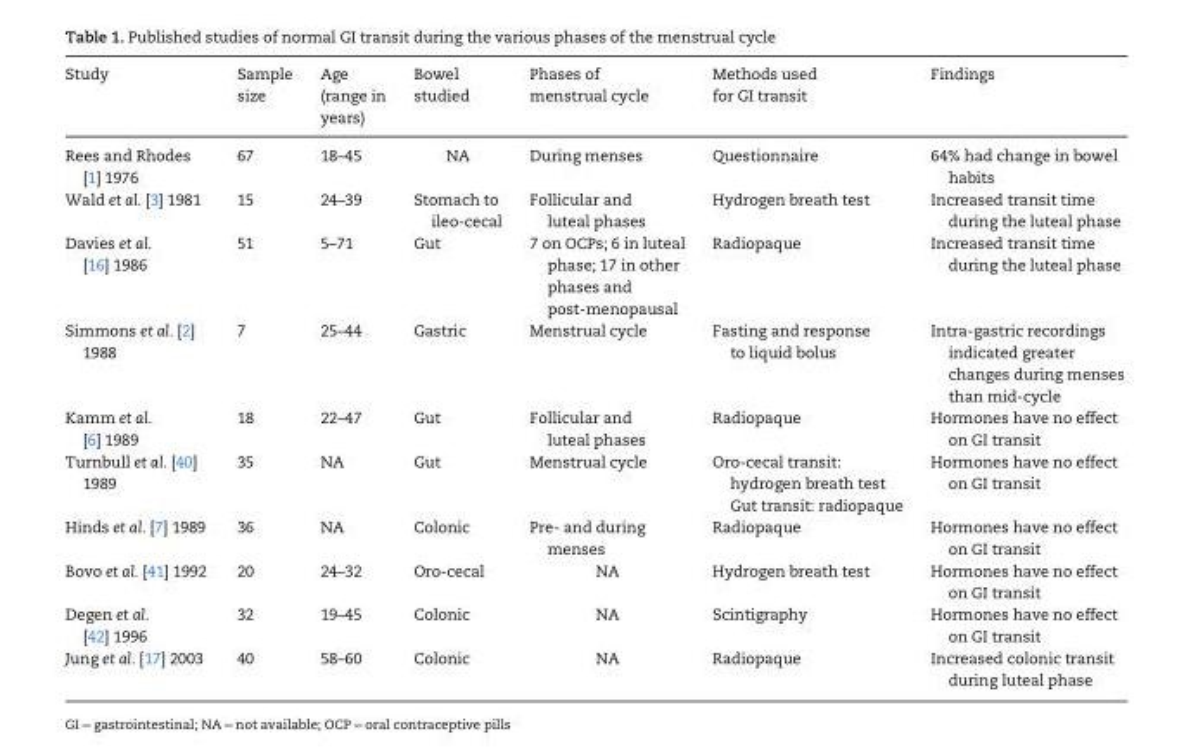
<table><thead><tr><td>Study</td><td>Sample size</td><td>Age (range in years)</td><td>Bowel studied</td><td>Phases of menstrual cycle</td><td>Methods used for GI transit</td><td>Findings</td></tr></thead><tbody><tr><td>Rees and Rhodes [1] 1976</td><td>67</td><td>18–45</td><td>NA</td><td>During menses</td><td>Questionnaire</td><td>64% had change in bowel habits</td></tr><tr><td>Wald et al. [3] 1981</td><td>15</td><td>24–39</td><td>Stomach to ileo-cecal</td><td>Follicular and luteal phases</td><td>Hydrogen breath test</td><td>Increased transit time during the luteal phase</td></tr><tr><td>Davies et al. [16] 1986</td><td>51</td><td>5–71</td><td>Gut</td><td>7 on OCPs; 6 in luteal phase; 17 in other phases and post-menopausal</td><td>Radiopaque</td><td>Increased transit time during the luteal phase</td></tr><tr><td>Simmons et al. [2] 1988</td><td>7</td><td>25–44</td><td>Gastric</td><td>Menstrual cycle</td><td>Fasting and response to liquid bolus</td><td>Intra-gastric recordings indicated greater changes during menses than mid-cycle</td></tr><tr><td>Kamm et al. [6] 1989</td><td>18</td><td>22–47</td><td>Gut</td><td>Follicular and luteal phases</td><td>Radiopaque</td><td>Hormones have no effect on GI transit</td></tr><tr><td>Turnbull et al. [40] 1989</td><td>35</td><td>NA</td><td>Gut</td><td>Menstrual cycle</td><td>Oro-cecal transit: hydrogen breath test Gut transit: radiopaque</td><td>Hormones have no effect on GI transit</td></tr><tr><td>Hinds et al. [7] 1989</td><td>36</td><td>NA</td><td>Colonic</td><td>Pre- and during menses</td><td>Radiopaque</td><td>Hormones have no effect on GI transit</td></tr><tr><td>Bovo et al. [41] 1992</td><td>20</td><td>24–32</td><td>Oro-cecal</td><td>NA</td><td>Hydrogen breath test</td><td>Hormones have no effect on GI transit</td></tr><tr><td>Degen et al. [42] 1996</td><td>32</td><td>19–45</td><td>Colonic</td><td>NA</td><td>Scintigraphy</td><td>Hormones have no effect on GI transit</td></tr><tr><td>Jung et al. [17] 2003</td><td>40</td><td>58–60</td><td>Colonic</td><td>NA</td><td>Radiopaque</td><td>Increased colonic transit during luteal phase</td></tr></tbody></table>